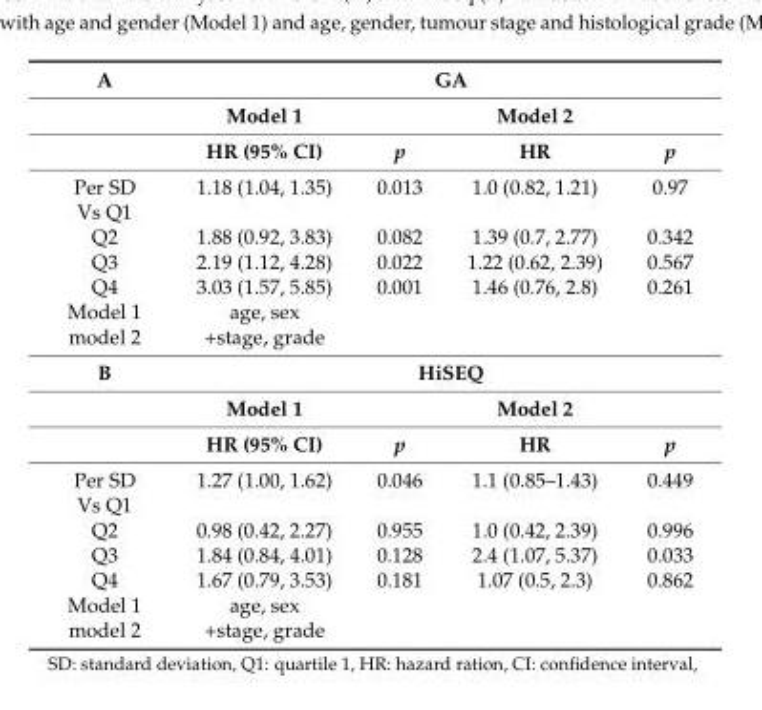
<table><tbody><tr><td rowspan="3">A</td><td colspan="4">GA</td></tr><tr><td>Model 1</td><td></td><td>Model 2</td><td></td></tr><tr><td>HR (95% CI)</td><td>p</td><td>HR</td><td>p</td></tr><tr><td>Per SD</td><td>1.18 (1.04, 1.35)</td><td>0.013</td><td>1.0 (0.82, 1.21)</td><td>0.97</td></tr><tr><td colspan="5">Vs Q1</td></tr><tr><td>Q2</td><td>1.88 (0.92, 3.83)</td><td>0.082</td><td>1.39 (0.7, 2.77)</td><td>0.342</td></tr><tr><td>Q3</td><td>2.19 (1.12, 4.28)</td><td>0.022</td><td>1.22 (0.62, 2.39)</td><td>0.567</td></tr><tr><td>Q4</td><td>3.03 (1.57, 5.85)</td><td>0.001</td><td>1.46 (0.76, 2.8)</td><td>0.261</td></tr><tr><td>Model 1</td><td>age, sex</td><td></td><td></td><td></td></tr><tr><td>model 2</td><td>+stage, grade</td><td></td><td></td><td></td></tr><tr><td rowspan="3">B</td><td colspan="4">HiSEQ</td></tr><tr><td>Model 1</td><td></td><td>Model 2</td><td></td></tr><tr><td>HR (95% CI)</td><td>p</td><td>HR</td><td>p</td></tr><tr><td>Per SD</td><td>1.27 (1.00, 1.62)</td><td>0.046</td><td>1.1 (0.85–1.43)</td><td>0.449</td></tr><tr><td colspan="5">Vs Q1</td></tr><tr><td>Q2</td><td>0.98 (0.42, 2.27)</td><td>0.955</td><td>1.0 (0.42, 2.39)</td><td>0.996</td></tr><tr><td>Q3</td><td>1.84 (0.84, 4.01)</td><td>0.128</td><td>2.4 (1.07, 5.37)</td><td>0.033</td></tr><tr><td>Q4</td><td>1.67 (0.79, 3.53)</td><td>0.181</td><td>1.07 (0.5, 2.3)</td><td>0.862</td></tr><tr><td>Model 1</td><td>age, sex</td><td></td><td></td><td></td></tr><tr><td>model 2</td><td>+stage, grade</td><td></td><td></td><td></td></tr></tbody></table>